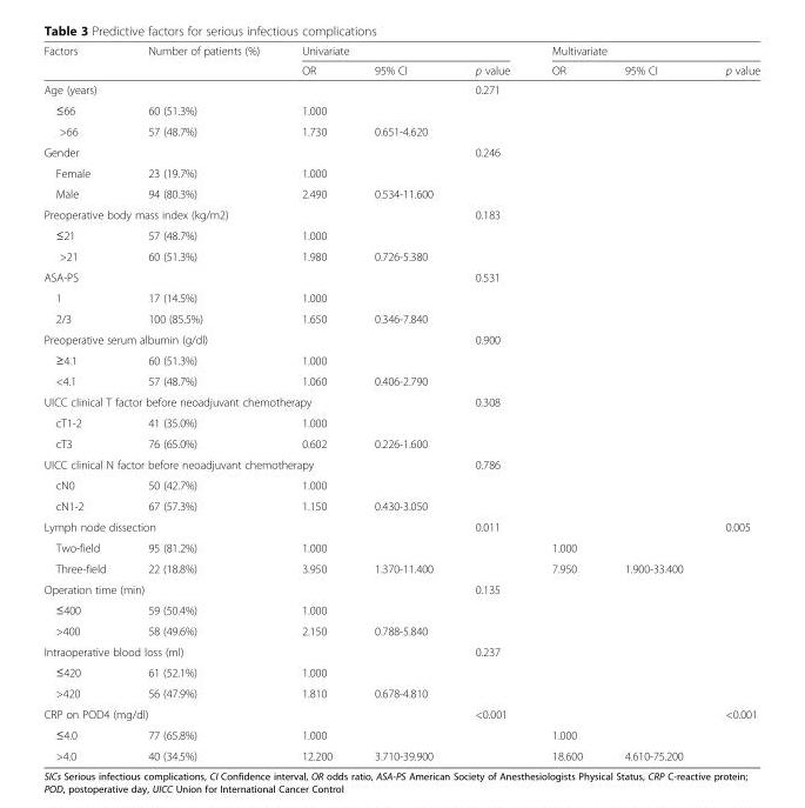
<table><thead><tr><td rowspan="2">Factors</td><td rowspan="2">Number of patients (%)</td><td colspan="3">Univariate</td><td colspan="3">Multivariate</td></tr><tr><td>OR</td><td>95% CI</td><td>p value</td><td>OR</td><td>95% CI</td><td>p value</td></tr></thead><tbody><tr><td colspan="3">Age (years)</td><td></td><td>0.271</td><td></td><td></td><td></td></tr><tr><td>≤66</td><td>60 (51.3%)</td><td>1.000</td><td></td><td></td><td></td><td></td><td></td></tr><tr><td>&gt;66</td><td>57 (48.7%)</td><td>1.730</td><td>0.651-4.620</td><td></td><td></td><td></td><td></td></tr><tr><td colspan="2">Gender</td><td></td><td></td><td>0.246</td><td></td><td></td><td></td></tr><tr><td>Female</td><td>23 (19.7%)</td><td>1.000</td><td></td><td></td><td></td><td></td><td></td></tr><tr><td>Male</td><td>94 (80.3%)</td><td>2.490</td><td>0.534-11.600</td><td></td><td></td><td></td><td></td></tr><tr><td colspan="3">Preoperative body mass index (kg/m2)</td><td></td><td>0.183</td><td></td><td></td><td></td></tr><tr><td>≤21</td><td>57 (48.7%)</td><td>1.000</td><td></td><td></td><td></td><td></td><td></td></tr><tr><td>&gt;21</td><td>60 (51.3%)</td><td>1.980</td><td>0.726-5.380</td><td></td><td></td><td></td><td></td></tr><tr><td colspan="3">ASA-PS</td><td></td><td>0.531</td><td></td><td></td><td></td></tr><tr><td>1</td><td>17 (14.5%)</td><td>1.000</td><td></td><td></td><td></td><td></td><td></td></tr><tr><td>2/3</td><td>100 (85.5%)</td><td>1.650</td><td>0.346-7.840</td><td></td><td></td><td></td><td></td></tr><tr><td colspan="3">Preoperative serum albumin (g/dl)</td><td></td><td>0.900</td><td></td><td></td><td></td></tr><tr><td>≥4.1</td><td>60 (51.3%)</td><td>1.000</td><td></td><td></td><td></td><td></td><td></td></tr><tr><td>&lt;4.1</td><td>57 (48.7%)</td><td>1.060</td><td>0.406-2.790</td><td></td><td></td><td></td><td></td></tr><tr><td colspan="4">UICC clinical T factor before neoadjuvant chemotherapy</td><td>0.308</td><td></td><td></td><td></td></tr><tr><td>cT1-2</td><td>41 (35.0%)</td><td>1.000</td><td></td><td></td><td></td><td></td><td></td></tr><tr><td>cT3</td><td>76 (65.0%)</td><td>0.602</td><td>0.226-1.600</td><td></td><td></td><td></td><td></td></tr><tr><td colspan="4">UICC clinical N factor before neoadjuvant chemotherapy</td><td>0.786</td><td></td><td></td><td></td></tr><tr><td>cN0</td><td>50 (42.7%)</td><td>1.000</td><td></td><td></td><td></td><td></td><td></td></tr><tr><td>cN1-2</td><td>67 (57.3%)</td><td>1.150</td><td>0.430-3.050</td><td></td><td></td><td></td><td></td></tr><tr><td colspan="3">Lymph node dissection</td><td></td><td>0.011</td><td></td><td></td><td>0.005</td></tr><tr><td>Two-field</td><td>95 (81.2%)</td><td>1.000</td><td></td><td></td><td>1.000</td><td></td><td></td></tr><tr><td>Three-field</td><td>22 (18.8%)</td><td>3.950</td><td>1.370-11.400</td><td></td><td>7.950</td><td>1.900-33.400</td><td></td></tr><tr><td colspan="3">Operation time (min)</td><td></td><td>0.135</td><td></td><td></td><td></td></tr><tr><td>≤400</td><td>59 (50.4%)</td><td>1.000</td><td></td><td></td><td></td><td></td><td></td></tr><tr><td>&gt;400</td><td>58 (49.6%)</td><td>2.150</td><td>0.788-5.840</td><td></td><td></td><td></td><td></td></tr><tr><td colspan="3">Intraoperative blood loss (ml)</td><td></td><td>0.237</td><td></td><td></td><td></td></tr><tr><td>≤420</td><td>61 (52.1%)</td><td>1.000</td><td></td><td></td><td></td><td></td><td></td></tr><tr><td>&gt;420</td><td>56 (47.9%)</td><td>1.810</td><td>0.678-4.810</td><td></td><td></td><td></td><td></td></tr><tr><td colspan="3">CRP on POD4 (mg/dl)</td><td></td><td>&lt;0.001</td><td></td><td></td><td>&lt;0.001</td></tr><tr><td>≤4.0</td><td>77 (65.8%)</td><td>1.000</td><td></td><td></td><td>1.000</td><td></td><td></td></tr><tr><td>&gt;4.0</td><td>40 (34.5%)</td><td>12.200</td><td>3.710-39.900</td><td></td><td>18.600</td><td>4.610-75.200</td><td></td></tr></tbody></table>